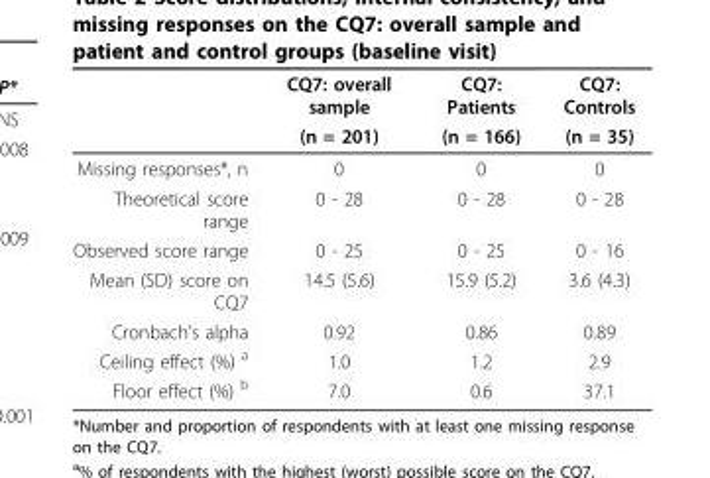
<table><thead><tr><td rowspan="2"></td><td rowspan="2">CQ7: overall sample (n = 201)</td><td rowspan="2">CQ7: Patients (n = 166)</td><td rowspan="2">CQ7: Controls (n = 35)</td></tr><tr></tr></thead><tbody><tr><td>Missing responses*, n</td><td>0</td><td>0</td><td>0</td></tr><tr><td>Theoretical score range</td><td>0 - 28</td><td>0 - 28</td><td>0 - 28</td></tr><tr><td>Observed score range</td><td>0 - 25</td><td>0 - 25</td><td>0 - 16</td></tr><tr><td>Mean (SD) score on CQ7</td><td>14.5 (5.6)</td><td>15.9 (5.2)</td><td>3.6 (4.3)</td></tr><tr><td>Cronbach’s alpha</td><td>0.92</td><td>0.86</td><td>0.89</td></tr><tr><td>Ceiling effect (%) <sup>a</sup></td><td>1.0</td><td>1.2</td><td>2.9</td></tr><tr><td>Floor effect (%) <sup>b</sup></td><td>7.0</td><td>0.6</td><td>37.1</td></tr></tbody></table>